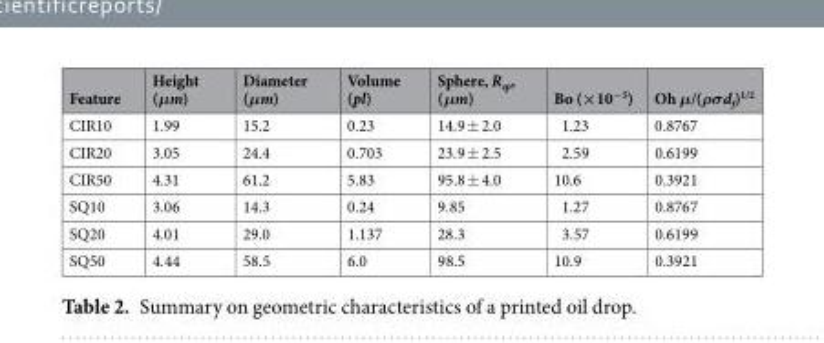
<table><thead><tr><td>Feature</td><td>Height (μm)</td><td>Diameter (μm)</td><td>Volume (pl)</td><td>Sphere, R<sub>sp</sub>, (μm)</td><td>Bo (×10<sup>−5</sup>)</td><td>Oh μ/(ρσd<sub>f</sub>)<sup>1/2</sup></td></tr></thead><tbody><tr><td>CIR10</td><td>1.99</td><td>15.2</td><td>0.23</td><td>14.9 ± 2.0</td><td>1.23</td><td>0.8767</td></tr><tr><td>CIR20</td><td>3.05</td><td>24.4</td><td>0.703</td><td>23.9 ± 2.5</td><td>2.59</td><td>0.6199</td></tr><tr><td>CIR50</td><td>4.31</td><td>61.2</td><td>5.83</td><td>95.8 ± 4.0</td><td>10.6</td><td>0.3921</td></tr><tr><td>SQ10</td><td>3.06</td><td>14.3</td><td>0.24</td><td>9.85</td><td>1.27</td><td>0.8767</td></tr><tr><td>SQ20</td><td>4.01</td><td>29.0</td><td>1.137</td><td>28.3</td><td>3.57</td><td>0.6199</td></tr><tr><td>SQ50</td><td>4.44</td><td>58.5</td><td>6.0</td><td>98.5</td><td>10.9</td><td>0.3921</td></tr></tbody></table>